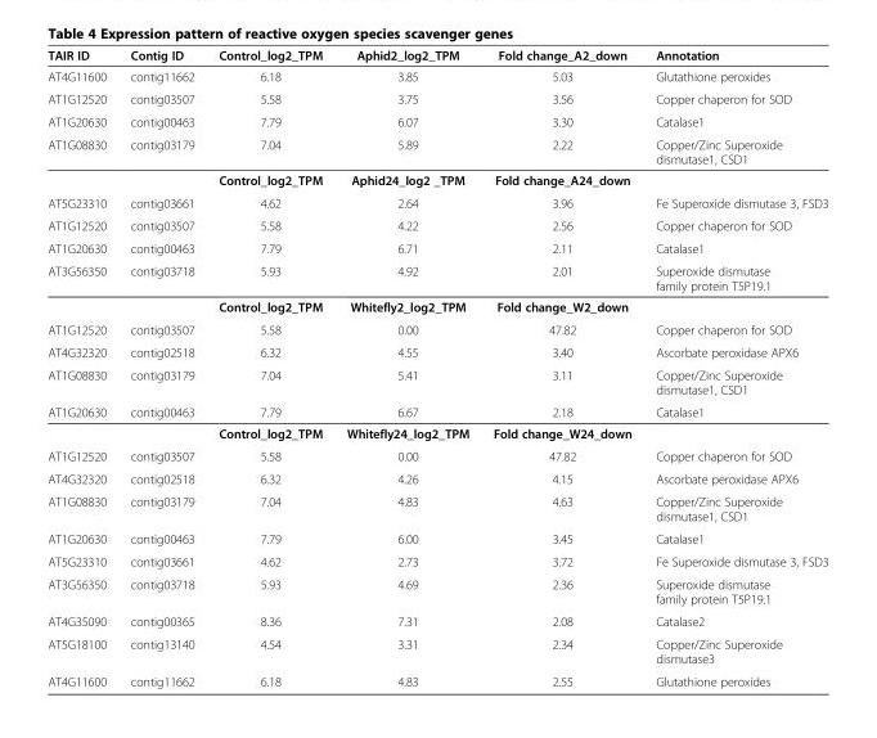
<table><thead><tr><td>TAIR ID</td><td>Contig ID</td><td>Control_log2_TPM</td><td>Aphid2_log2_TPM</td><td>Fold change_A2_down</td><td>Annotation</td></tr></thead><tbody><tr><td>AT4G11600</td><td>contig11662</td><td>6.18</td><td>3.85</td><td>5.03</td><td>Glutathione peroxides</td></tr><tr><td>AT1G12520</td><td>contig03507</td><td>5.58</td><td>3.75</td><td>3.56</td><td>Copper chaperon for SOD</td></tr><tr><td>AT1G20630</td><td>contig00463</td><td>7.79</td><td>6.07</td><td>3.30</td><td>Catalase1</td></tr><tr><td rowspan="2">AT1G08830</td><td>contig03179</td><td>7.04</td><td>5.89</td><td>2.22</td><td>Copper/Zinc Superoxide dismutase1, CSD1</td></tr><tr><td></td><td>Control_log2_TPM</td><td>Aphid24_log2 _TPM</td><td>Fold change_A24_down</td><td></td></tr><tr><td>AT5G23310</td><td>contig03661</td><td>4.62</td><td>2.64</td><td>3.96</td><td>Fe Superoxide dismutase 3, FSD3</td></tr><tr><td>AT1G12520</td><td>contig03507</td><td>5.58</td><td>4.22</td><td>2.56</td><td>Copper chaperon for SOD</td></tr><tr><td>AT1G20630</td><td>contig00463</td><td>7.79</td><td>6.71</td><td>2.11</td><td>Catalase1</td></tr><tr><td rowspan="2">AT3G56350</td><td>contig03718</td><td>5.93</td><td>4.92</td><td>2.01</td><td>Superoxide dismutase family protein T5P19.1</td></tr><tr><td></td><td>Control_log2_TPM</td><td>Whitefly2_log2_TPM</td><td>Fold change_W2_down</td><td></td></tr><tr><td>AT1G12520</td><td>contig03507</td><td>5.58</td><td>0.00</td><td>47.82</td><td>Copper chaperon for SOD</td></tr><tr><td>AT4G32320</td><td>contig02518</td><td>6.32</td><td>4.55</td><td>3.40</td><td>Ascorbate peroxidase APX6</td></tr><tr><td>AT1G08830</td><td>contig03179</td><td>7.04</td><td>5.41</td><td>3.11</td><td>Copper/Zinc Superoxide dismutase1, CSD1</td></tr><tr><td rowspan="2">AT1G20630</td><td>contig00463</td><td>7.79</td><td>6.67</td><td>2.18</td><td>Catalase1</td></tr><tr><td></td><td>Control_log2_TPM</td><td>Whitefly24_log2_TPM</td><td>Fold change_W24_down</td><td></td></tr><tr><td>AT1G12520</td><td>contig03507</td><td>5.58</td><td>0.00</td><td>47.82</td><td>Copper chaperon for SOD</td></tr><tr><td>AT4G32320</td><td>contig02518</td><td>6.32</td><td>4.26</td><td>4.15</td><td>Ascorbate peroxidase APX6</td></tr><tr><td>AT1G08830</td><td>contig03179</td><td>7.04</td><td>4.83</td><td>4.63</td><td>Copper/Zinc Superoxide dismutase1, CSD1</td></tr><tr><td>AT1G20630</td><td>contig00463</td><td>7.79</td><td>6.00</td><td>3.45</td><td>Catalase1</td></tr><tr><td>AT5G23310</td><td>contig03661</td><td>4.62</td><td>2.73</td><td>3.72</td><td>Fe Superoxide dismutase 3, FSD3</td></tr><tr><td>AT3G56350</td><td>contig03718</td><td>5.93</td><td>4.69</td><td>2.36</td><td>Superoxide dismutase family protein T5P19.1</td></tr><tr><td>AT4G35090</td><td>contig00365</td><td>8.36</td><td>7.31</td><td>2.08</td><td>Catalase2</td></tr><tr><td>AT5G18100</td><td>contig13140</td><td>4.54</td><td>3.31</td><td>2.34</td><td>Copper/Zinc Superoxide dismutase3</td></tr><tr><td>AT4G11600</td><td>contig11662</td><td>6.18</td><td>4.83</td><td>2.55</td><td>Glutathione peroxides</td></tr></tbody></table>